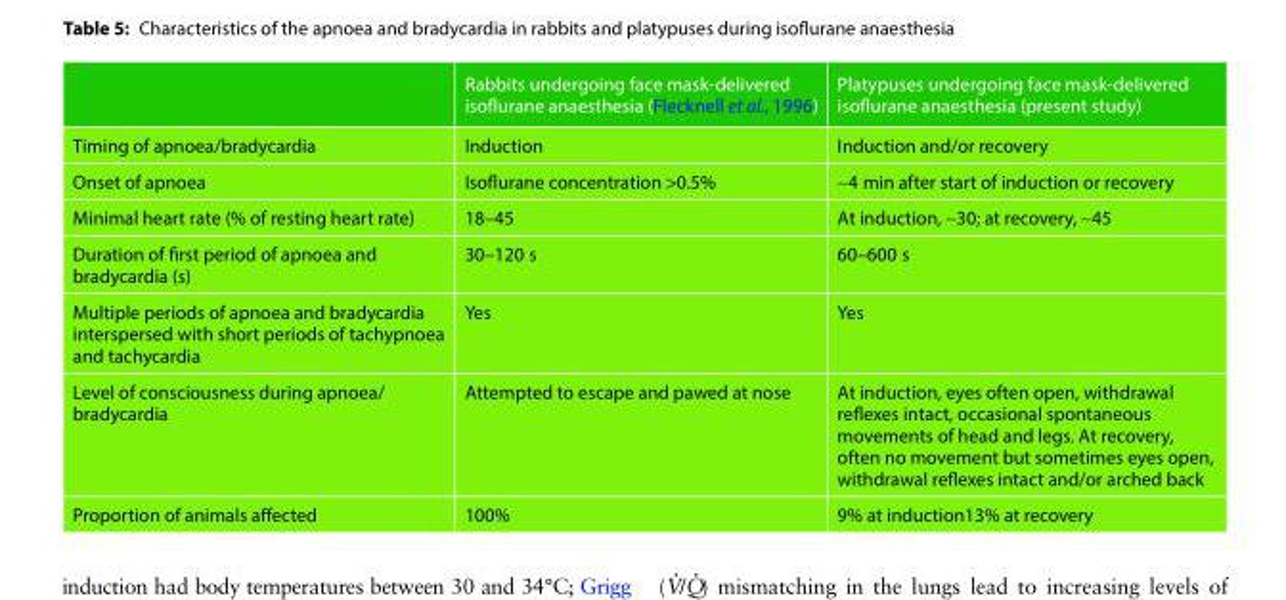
<table><thead><tr><td></td><td>Rabbits undergoing face mask-delivered isoflurane anaesthesia (Flecknell et al., 1996)</td><td>Platypuses undergoing face mask-delivered isoflurane anaesthesia (present study)</td></tr></thead><tbody><tr><td>Timing of apnoea/bradycardia</td><td>Induction</td><td>Induction and/or recovery</td></tr><tr><td>Onset of apnoea</td><td>Isoflurane concentration &gt;0.5%</td><td>∼4 min after start of induction or recovery</td></tr><tr><td>Minimal heart rate (% of resting heart rate)</td><td>18–45</td><td>At induction, ∼30; at recovery, ∼45</td></tr><tr><td>Duration of first period of apnoea and bradycardia (s)</td><td>30–120 s</td><td>60–600 s</td></tr><tr><td>Multiple periods of apnoea and bradycardia interspersed with short periods of tachypnoea and tachycardia</td><td>Yes</td><td>Yes</td></tr><tr><td>Level of consciousness during apnoea/ bradycardia</td><td>Attempted to escape and pawed at nose</td><td>At induction, eyes often open, withdrawal reflexes intact, occasional spontaneous movements of head and legs. At recovery, often no movement but sometimes eyes open, withdrawal reflexes intact and/or arched back</td></tr><tr><td>Proportion of animals affected</td><td>100%</td><td>9% at induction13% at recovery</td></tr></tbody></table>